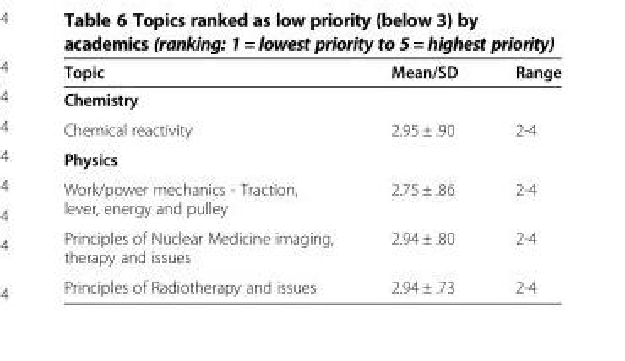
<table><thead><tr><td>Topic</td><td>Mean/SD</td><td>Range</td></tr></thead><tbody><tr><td colspan="3">Chemistry</td></tr><tr><td>Chemical reactivity</td><td>2.95 ± .90</td><td>2-4</td></tr><tr><td colspan="3">Physics</td></tr><tr><td>Work/power mechanics - Traction, lever, energy and pulley</td><td>2.75 ± .86</td><td>2-4</td></tr><tr><td>Principles of Nuclear Medicine imaging, therapy and issues</td><td>2.94 ± .80</td><td>2-4</td></tr><tr><td>Principles of Radiotherapy and issues</td><td>2.94 ± .73</td><td>2-4</td></tr></tbody></table>